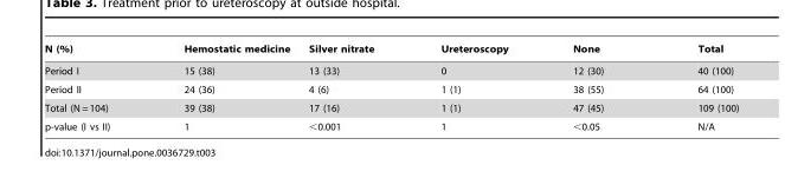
<table><thead><tr><td>N (%)</td><td>Hemostatic medicine</td><td>Silver nitrate</td><td>Ureteroscopy</td><td>None</td><td>Total</td></tr></thead><tbody><tr><td>Period I</td><td>15 (38)</td><td>13 (33)</td><td>0</td><td>12 (30)</td><td>40 (100)</td></tr><tr><td>Period II</td><td>24 (36)</td><td>4 (6)</td><td>1 (1)</td><td>38 (55)</td><td>64 (100)</td></tr><tr><td>Total (N = 104)</td><td>39 (38)</td><td>17 (16)</td><td>1 (1)</td><td>47 (45)</td><td>109 (100)</td></tr><tr><td>p-value (I vs II)</td><td>1</td><td>&lt;0.001</td><td>1</td><td>&lt;0.05</td><td>N/A</td></tr></tbody></table>